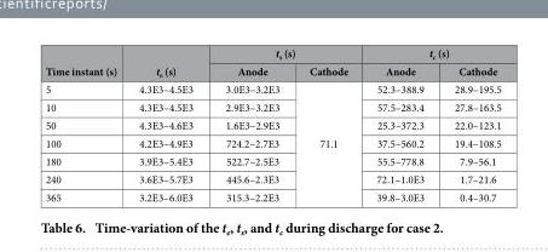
<table><thead><tr><td rowspan="2">Time instant (s)</td><td rowspan="2">t<sub>e</sub> (s)</td><td colspan="2">t<sub>s</sub> (s)</td><td colspan="2">t<sub>c</sub> (s)</td></tr><tr><td>Anode</td><td>Cathode</td><td>Anode</td><td>Cathode</td></tr></thead><tbody><tr><td>5</td><td>4.3E3–4.5E3</td><td>3.0E3–3.2E3</td><td rowspan="7">71.1</td><td>52.3–388.9</td><td>28.9–195.5</td></tr><tr><td>10</td><td>4.3E3–4.5E3</td><td>2.9E3–3.2E3</td><td>57.5–283.4</td><td>27.8–163.5</td></tr><tr><td>50</td><td>4.3E3–4.6E3</td><td>1.6E3–2.9E3</td><td>25.3–372.3</td><td>22.0–123.1</td></tr><tr><td>100</td><td>4.2E3–4.9E3</td><td>724.2–2.7E3</td><td>37.5–560.2</td><td>19.4–108.5</td></tr><tr><td>180</td><td>3.9E3–5.4E3</td><td>522.7–2.5E3</td><td>55.5–778.8</td><td>7.9–56.1</td></tr><tr><td>240</td><td>3.6E3–5.7E3</td><td>445.6–2.3E3</td><td>72.1–1.0E3</td><td>1.7–21.6</td></tr><tr><td>365</td><td>3.2E3–6.0E3</td><td>315.3–2.2E3</td><td>39.8–3.0E3</td><td>0.4–30.7</td></tr></tbody></table>